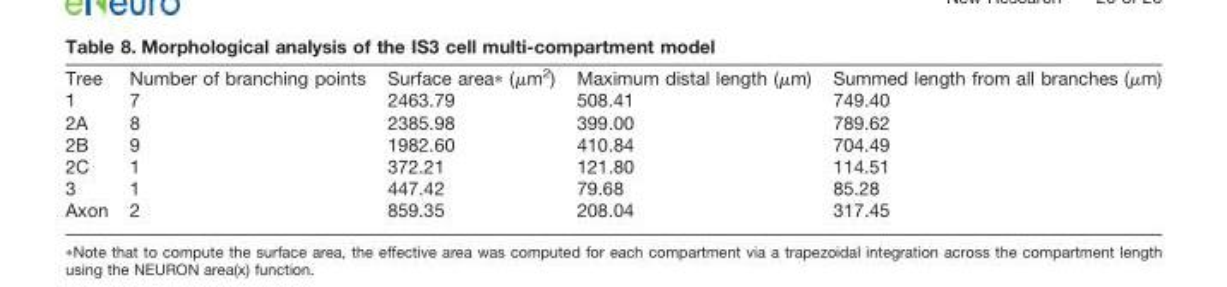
<table><thead><tr><td>Tree</td><td>Number of branching points</td><td>Surface area* (μm<sup>2</sup>)</td><td>Maximum distal length (μm)</td><td>Summed length from all branches (μm)</td></tr></thead><tbody><tr><td>1</td><td>7</td><td>2463.79</td><td>508.41</td><td>749.40</td></tr><tr><td>2A</td><td>8</td><td>2385.98</td><td>399.00</td><td>789.62</td></tr><tr><td>2B</td><td>9</td><td>1982.60</td><td>410.84</td><td>704.49</td></tr><tr><td>2C</td><td>1</td><td>372.21</td><td>121.80</td><td>114.51</td></tr><tr><td>3</td><td>1</td><td>447.42</td><td>79.68</td><td>85.28</td></tr><tr><td>Axon</td><td>2</td><td>859.35</td><td>208.04</td><td>317.45</td></tr></tbody></table>